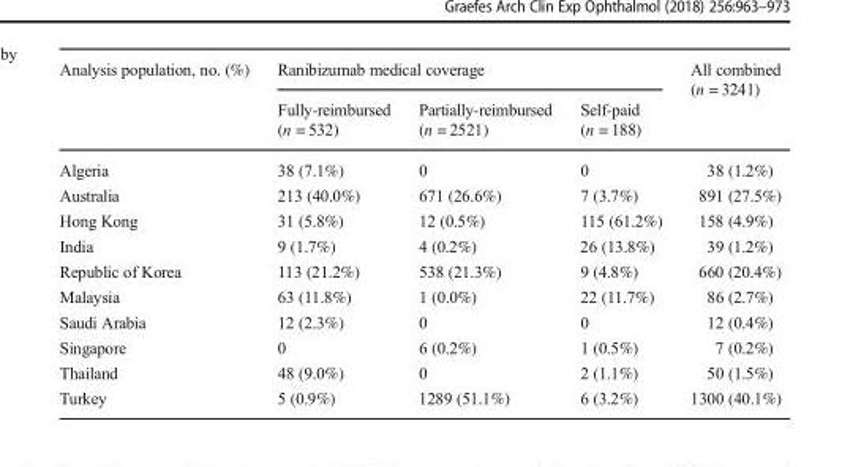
<table><thead><tr><td rowspan="2">Analysis population, no. (%)</td><td colspan="3">Ranibizumab medical coverage</td><td rowspan="2">All combined (n = 3241)</td></tr><tr><td>Fully-reimbursed (n = 532)</td><td>Partially-reimbursed (n = 2521)</td><td>Self-paid (n = 188)</td></tr></thead><tbody><tr><td>Algeria</td><td>38 (7.1%)</td><td>0</td><td>0</td><td>38 (1.2%)</td></tr><tr><td>Australia</td><td>213 (40.0%)</td><td>671 (26.6%)</td><td>7 (3.7%)</td><td>891 (27.5%)</td></tr><tr><td>Hong Kong</td><td>31 (5.8%)</td><td>12 (0.5%)</td><td>115 (61.2%)</td><td>158 (4.9%)</td></tr><tr><td>India</td><td>9 (1.7%)</td><td>4 (0.2%)</td><td>26 (13.8%)</td><td>39 (1.2%)</td></tr><tr><td>Republic of Korea</td><td>113 (21.2%)</td><td>538 (21.3%)</td><td>9 (4.8%)</td><td>660 (20.4%)</td></tr><tr><td>Malaysia</td><td>63 (11.8%)</td><td>1 (0.0%)</td><td>22 (11.7%)</td><td>86 (2.7%)</td></tr><tr><td>Saudi Arabia</td><td>12 (2.3%)</td><td>0</td><td>0</td><td>12 (0.4%)</td></tr><tr><td>Singapore</td><td>0</td><td>6 (0.2%)</td><td>1 (0.5%)</td><td>7 (0.2%)</td></tr><tr><td>Thailand</td><td>48 (9.0%)</td><td>0</td><td>2 (1.1%)</td><td>50 (1.5%)</td></tr><tr><td>Turkey</td><td>5 (0.9%)</td><td>1289 (51.1%)</td><td>6 (3.2%)</td><td>1300 (40.1%)</td></tr></tbody></table>